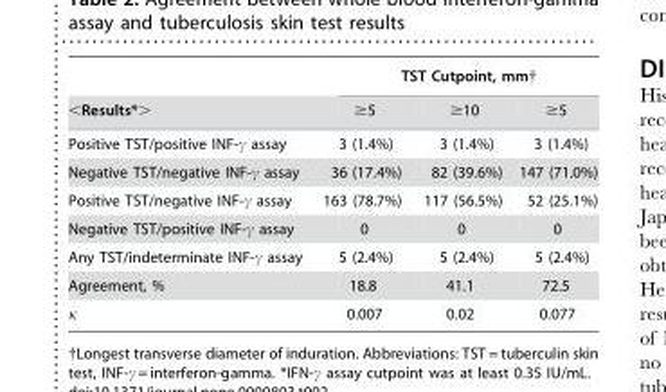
<table><thead><tr><td rowspan="2">&lt;Results*&gt;</td><td colspan="3">TST Cutpoint, mm†</td></tr><tr><td>≥5</td><td>≥10</td><td>≥5</td></tr></thead><tbody><tr><td>Positive TST/positive INF-γ assay</td><td>3 (1.4%)</td><td>3 (1.4%)</td><td>3 (1.4%)</td></tr><tr><td>Negative TST/negative INF-γ assay</td><td>36 (17.4%)</td><td>82 (39.6%)</td><td>147 (71.0%)</td></tr><tr><td>Positive TST/negative INF-γ assay</td><td>163 (78.7%)</td><td>117 (56.5%)</td><td>52 (25.1%)</td></tr><tr><td>Negative TST/positive INF-γ assay</td><td>0</td><td>0</td><td>0</td></tr><tr><td>Any TST/indeterminate INF-γ assay</td><td>5 (2.4%)</td><td>5 (2.4%)</td><td>5 (2.4%)</td></tr><tr><td>Agreement, %</td><td>18.8</td><td>41.1</td><td>72.5</td></tr><tr><td>κ</td><td>0.007</td><td>0.02</td><td>0.077</td></tr></tbody></table>